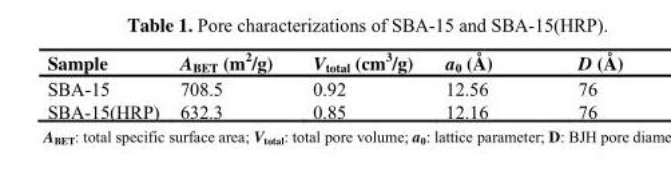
<table><thead><tr><td>Sample</td><td>A<sub>BET</sub> (m<sup>2</sup>/g)</td><td>V<sub>total</sub> (cm<sup>3</sup>/g)</td><td>a<sub>0</sub> (Å)</td><td>D (Å)</td></tr></thead><tbody><tr><td>SBA-15</td><td>708.5</td><td>0.92</td><td>12.56</td><td>76</td></tr><tr><td>SBA-15(HRP)</td><td>632.3</td><td>0.85</td><td>12.16</td><td>76</td></tr></tbody></table>